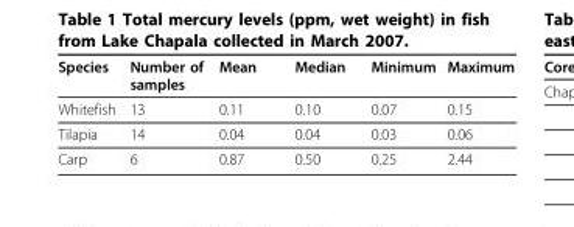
<table><thead><tr><td>Species</td><td>Number of samples</td><td>Mean</td><td>Median</td><td>Minimum</td><td>Maximum</td></tr></thead><tbody><tr><td>Whitefish</td><td>13</td><td>0.11</td><td>0.10</td><td>0.07</td><td>0.15</td></tr><tr><td>Tilapia</td><td>14</td><td>0.04</td><td>0.04</td><td>0.03</td><td>0.06</td></tr><tr><td>Carp</td><td>6</td><td>0.87</td><td>0.50</td><td>0.25</td><td>2.44</td></tr></tbody></table>